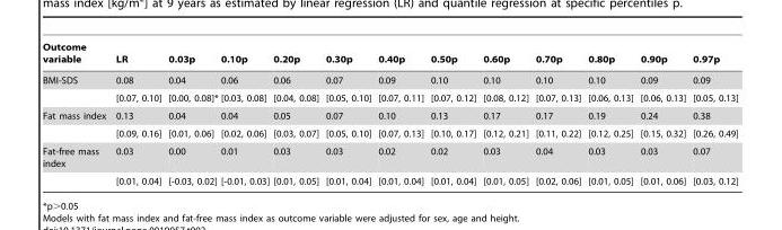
<table><thead><tr><td>Outcome variable</td><td>LR</td><td>0.03p</td><td>0.10p</td><td>0.20p</td><td>0.30p</td><td>0.40p</td><td>0.50p</td><td>0.60p</td><td>0.70p</td><td>0.80p</td><td>0.90p</td><td>0.97p</td></tr></thead><tbody><tr><td rowspan="2">BMI-SDS</td><td>0.08</td><td>0.04</td><td>0.06</td><td>0.06</td><td>0.07</td><td>0.09</td><td>0.10</td><td>0.10</td><td>0.10</td><td>0.10</td><td>0.09</td><td>0.09</td></tr><tr><td>[0.07, 0.10]</td><td>[0.00, 0.08]*</td><td>[0.03, 0.08]</td><td>[0.04, 0.08]</td><td>[0.05, 0.10]</td><td>[0.07, 0.11]</td><td>[0.07, 0.12]</td><td>[0.08, 0.12]</td><td>[0.07, 0.13]</td><td>[0.06, 0.13]</td><td>[0.06, 0.13]</td><td>[0.05, 0.13]</td></tr><tr><td rowspan="2">Fat mass index</td><td>0.13</td><td>0.04</td><td>0.04</td><td>0.05</td><td>0.07</td><td>0.10</td><td>0.13</td><td>0.17</td><td>0.17</td><td>0.19</td><td>0.24</td><td>0.38</td></tr><tr><td>[0.09, 0.16]</td><td>[0.01, 0.06]</td><td>[0.02, 0.06]</td><td>[0.03, 0.07]</td><td>[0.05, 0.10]</td><td>[0.07, 0.13]</td><td>[0.10, 0.17]</td><td>[0.12, 0.21]</td><td>[0.11, 0.22]</td><td>[0.12, 0.25]</td><td>[0.15, 0.32]</td><td>[0.26, 0.49]</td></tr><tr><td rowspan="2">Fat-free mass index</td><td>0.03</td><td>0.00</td><td>0.01</td><td>0.03</td><td>0.03</td><td>0.02</td><td>0.02</td><td>0.03</td><td>0.04</td><td>0.03</td><td>0.03</td><td>0.07</td></tr><tr><td>[0.01, 0.04]</td><td>[-0.03, 0.02]</td><td>[-0.01, 0.03]</td><td>[0.01, 0.05]</td><td>[0.01, 0.04]</td><td>[0.01, 0.04]</td><td>[0.01, 0.04]</td><td>[0.01, 0.05]</td><td>[0.02, 0.06]</td><td>[0.01, 0.05]</td><td>[0.01, 0.06]</td><td>[0.03, 0.12]</td></tr></tbody></table>